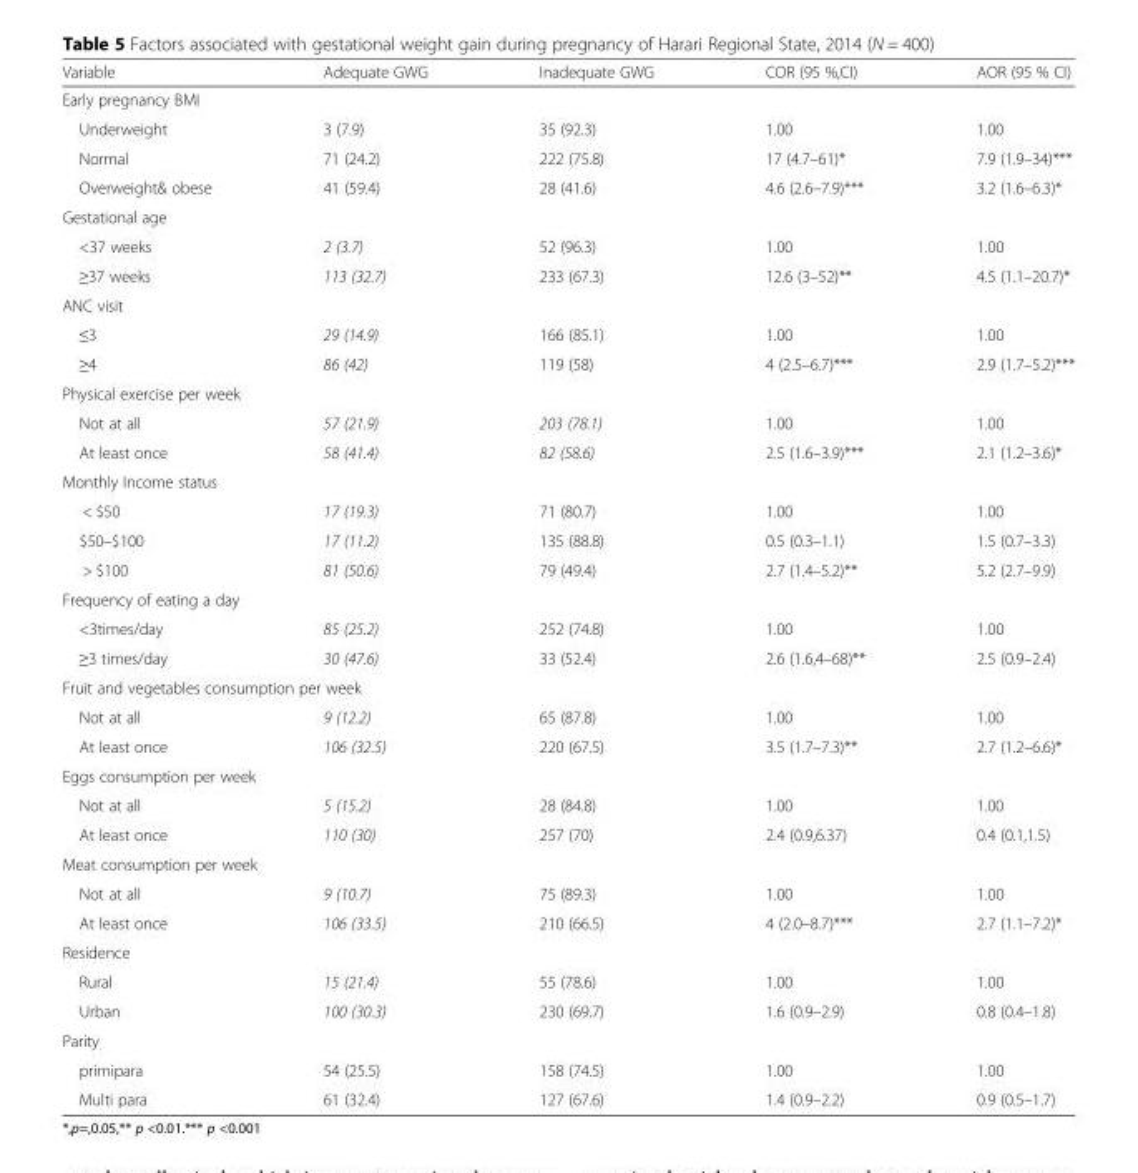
<table><thead><tr><td>Variable</td><td>Adequate GWG</td><td>Inadequate GWG</td><td>COR (95 %,CI)</td><td>AOR (95 % CI)</td></tr></thead><tbody><tr><td colspan="5">Early pregnancy BMI</td></tr><tr><td>Underweight</td><td>3 (7.9)</td><td>35 (92.3)</td><td>1.00</td><td>1.00</td></tr><tr><td>Normal</td><td>71 (24.2)</td><td>222 (75.8)</td><td>17 (4.7–61)*</td><td>7.9 (1.9–34)***</td></tr><tr><td>Overweight&amp; obese</td><td>41 (59.4)</td><td>28 (41.6)</td><td>4.6 (2.6–7.9)***</td><td>3.2 (1.6–6.3)*</td></tr><tr><td colspan="5">Gestational age</td></tr><tr><td>&lt;37 weeks</td><td>2 (3.7)</td><td>52 (96.3)</td><td>1.00</td><td>1.00</td></tr><tr><td>≥37 weeks</td><td>113 (32.7)</td><td>233 (67.3)</td><td>12.6 (3–52)**</td><td>4.5 (1.1–20.7)*</td></tr><tr><td colspan="5">ANC visit</td></tr><tr><td>≤3</td><td>29 (14.9)</td><td>166 (85.1)</td><td>1.00</td><td>1.00</td></tr><tr><td>≥4</td><td>86 (42)</td><td>119 (58)</td><td>4 (2.5–6.7)***</td><td>2.9 (1.7–5.2)***</td></tr><tr><td colspan="5">Physical exercise per week</td></tr><tr><td>Not at all</td><td>57 (21.9)</td><td>203 (78.1)</td><td>1.00</td><td>1.00</td></tr><tr><td>At least once</td><td>58 (41.4)</td><td>82 (58.6)</td><td>2.5 (1.6–3.9)***</td><td>2.1 (1.2–3.6)*</td></tr><tr><td colspan="5">Monthly Income status</td></tr><tr><td>&lt; $50</td><td>17 (19.3)</td><td>71 (80.7)</td><td>1.00</td><td>1.00</td></tr><tr><td>$50–$100</td><td>17 (11.2)</td><td>135 (88.8)</td><td>0.5 (0.3–1.1)</td><td>1.5 (0.7–3.3)</td></tr><tr><td>&gt; $100</td><td>81 (50.6)</td><td>79 (49.4)</td><td>2.7 (1.4–5.2)**</td><td>5.2 (2.7–9.9)</td></tr><tr><td colspan="5">Frequency of eating a day</td></tr><tr><td>&lt;3times/day</td><td>85 (25.2)</td><td>252 (74.8)</td><td>1.00</td><td>1.00</td></tr><tr><td>≥3 times/day</td><td>30 (47.6)</td><td>33 (52.4)</td><td>2.6 (1.6,4–68)**</td><td>2.5 (0.9–2.4)</td></tr><tr><td colspan="5">Fruit and vegetables consumption per week</td></tr><tr><td>Not at all</td><td>9 (12.2)</td><td>65 (87.8)</td><td>1.00</td><td>1.00</td></tr><tr><td>At least once</td><td>106 (32.5)</td><td>220 (67.5)</td><td>3.5 (1.7–7.3)**</td><td>2.7 (1.2–6.6)*</td></tr><tr><td colspan="5">Eggs consumption per week</td></tr><tr><td>Not at all</td><td>5 (15.2)</td><td>28 (84.8)</td><td>1.00</td><td>1.00</td></tr><tr><td>At least once</td><td>110 (30)</td><td>257 (70)</td><td>2.4 (0.9,6.37)</td><td>0.4 (0.1,1.5)</td></tr><tr><td colspan="5">Meat consumption per week</td></tr><tr><td>Not at all</td><td>9 (10.7)</td><td>75 (89.3)</td><td>1.00</td><td>1.00</td></tr><tr><td>At least once</td><td>106 (33.5)</td><td>210 (66.5)</td><td>4 (2.0–8.7)***</td><td>2.7 (1.1–7.2)*</td></tr><tr><td colspan="5">Residence</td></tr><tr><td>Rural</td><td>15 (21.4)</td><td>55 (78.6)</td><td>1.00</td><td>1.00</td></tr><tr><td>Urban</td><td>100 (30.3)</td><td>230 (69.7)</td><td>1.6 (0.9–2.9)</td><td>0.8 (0.4–1.8)</td></tr><tr><td colspan="5">Parity</td></tr><tr><td>primipara</td><td>54 (25.5)</td><td>158 (74.5)</td><td>1.00</td><td>1.00</td></tr><tr><td>Multi para</td><td>61 (32.4)</td><td>127 (67.6)</td><td>1.4 (0.9–2.2)</td><td>0.9 (0.5–1.7)</td></tr></tbody></table>